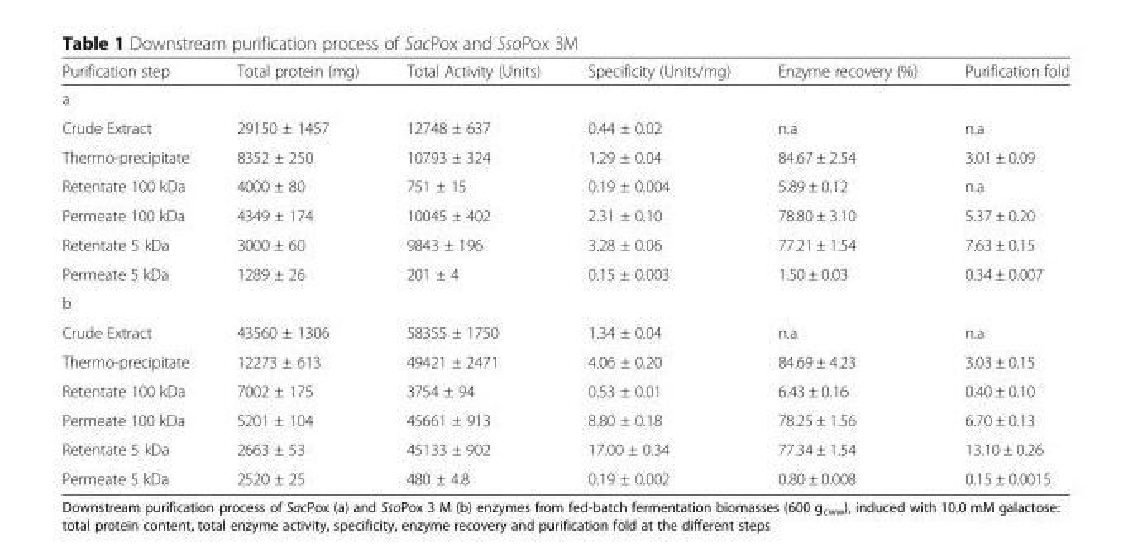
<table><thead><tr><td>Purification step</td><td>Total protein (mg)</td><td>Total Activity (Units)</td><td>Specificity (Units/mg)</td><td>Enzyme recovery (%)</td><td>Purification fold</td></tr></thead><tbody><tr><td colspan="6">a</td></tr><tr><td>Crude Extract</td><td>29150 ± 1457</td><td>12748 ± 637</td><td>0.44 ± 0.02</td><td>n.a</td><td>n.a</td></tr><tr><td>Thermo-precipitate</td><td>8352 ± 250</td><td>10793 ± 324</td><td>1.29 ± 0.04</td><td>84.67 ± 2.54</td><td>3.01 ± 0.09</td></tr><tr><td>Retentate 100 kDa</td><td>4000 ± 80</td><td>751 ± 15</td><td>0.19 ± 0.004</td><td>5.89 ± 0.12</td><td>n.a</td></tr><tr><td>Permeate 100 kDa</td><td>4349 ± 174</td><td>10045 ± 402</td><td>2.31 ± 0.10</td><td>78.80 ± 3.10</td><td>5.37 ± 0.20</td></tr><tr><td>Retentate 5 kDa</td><td>3000 ± 60</td><td>9843 ± 196</td><td>3.28 ± 0.06</td><td>77.21 ± 1.54</td><td>7.63 ± 0.15</td></tr><tr><td>Permeate 5 kDa</td><td>1289 ± 26</td><td>201 ± 4</td><td>0.15 ± 0.003</td><td>1.50 ± 0.03</td><td>0.34 ± 0.007</td></tr><tr><td colspan="6">b</td></tr><tr><td>Crude Extract</td><td>43560 ± 1306</td><td>58355 ± 1750</td><td>1.34 ± 0.04</td><td>n.a</td><td>n.a</td></tr><tr><td>Thermo-precipitate</td><td>12273 ± 613</td><td>49421 ± 2471</td><td>4.06 ± 0.20</td><td>84.69 ± 4.23</td><td>3.03 ± 0.15</td></tr><tr><td>Retentate 100 kDa</td><td>7002 ± 175</td><td>3754 ± 94</td><td>0.53 ± 0.01</td><td>6.43 ± 0.16</td><td>0.40 ± 0.10</td></tr><tr><td>Permeate 100 kDa</td><td>5201 ± 104</td><td>45661 ± 913</td><td>8.80 ± 0.18</td><td>78.25 ± 1.56</td><td>6.70 ± 0.13</td></tr><tr><td>Retentate 5 kDa</td><td>2663 ± 53</td><td>45133 ± 902</td><td>17.00 ± 0.34</td><td>77.34 ± 1.54</td><td>13.10 ± 0.26</td></tr><tr><td>Permeate 5 kDa</td><td>2520 ± 25</td><td>480 ± 4.8</td><td>0.19 ± 0.002</td><td>0.80 ± 0.008</td><td>0.15 ± 0.0015</td></tr></tbody></table>